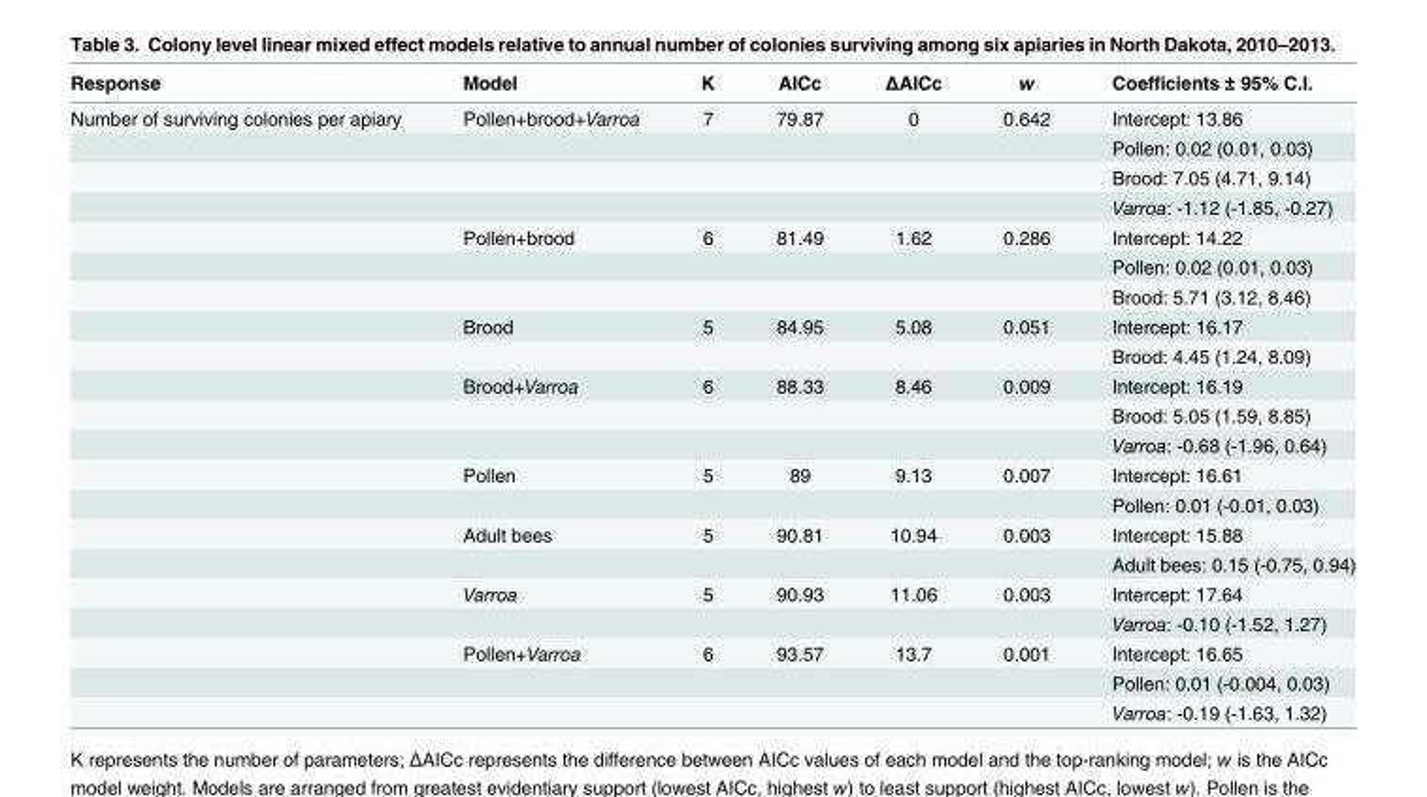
<table><thead><tr><td>Response</td><td>Model</td><td>K</td><td>AICc</td><td>ΔAICc</td><td>w</td><td>Coefficients ± 95% C.I.</td></tr></thead><tbody><tr><td rowspan="21">Number of surviving colonies per apiary</td><td>Pollen+brood+Varroa</td><td>7</td><td>79.87</td><td>0</td><td>0.642</td><td>Intercept: 13.86</td></tr><tr><td></td><td></td><td></td><td></td><td></td><td>Pollen: 0.02 (0.01, 0.03)</td></tr><tr><td></td><td></td><td></td><td></td><td></td><td>Brood: 7.05 (4.71, 9.14)</td></tr><tr><td></td><td></td><td></td><td></td><td></td><td>Varroa: -1.12 (-1.85, -0.27)</td></tr><tr><td>Pollen+brood</td><td>6</td><td>81.49</td><td>1.62</td><td>0.286</td><td>Intercept: 14.22</td></tr><tr><td></td><td></td><td></td><td></td><td></td><td>Pollen: 0.02 (0.01, 0.03)</td></tr><tr><td></td><td></td><td></td><td></td><td></td><td>Brood: 5.71 (3.12, 8.46)</td></tr><tr><td>Brood</td><td>5</td><td>84.95</td><td>5.08</td><td>0.051</td><td>Intercept: 16.17</td></tr><tr><td></td><td></td><td></td><td></td><td></td><td>Brood: 4.45 (1.24, 8.09)</td></tr><tr><td>Brood+Varroa</td><td>6</td><td>88.33</td><td>8.46</td><td>0.009</td><td>Intercept: 16.19</td></tr><tr><td></td><td></td><td></td><td></td><td></td><td>Brood: 5.05 (1.59, 8.85)</td></tr><tr><td></td><td></td><td></td><td></td><td></td><td>Varroa: -0.68 (-1.96, 0.64)</td></tr><tr><td>Pollen</td><td>5</td><td>89</td><td>9.13</td><td>0.007</td><td>Intercept: 16.61</td></tr><tr><td></td><td></td><td></td><td></td><td></td><td>Pollen: 0.01 (-0.01, 0.03)</td></tr><tr><td>Adult bees</td><td>5</td><td>90.81</td><td>10.94</td><td>0.003</td><td>Intercept: 15.88</td></tr><tr><td></td><td></td><td></td><td></td><td></td><td>Adult bees: 0.15 (-0.75, 0.94)</td></tr><tr><td>Varroa</td><td>5</td><td>90.93</td><td>11.06</td><td>0.003</td><td>Intercept: 17.64</td></tr><tr><td></td><td></td><td></td><td></td><td></td><td>Varroa: -0.10 (-1.52, 1.27)</td></tr><tr><td>Pollen+Varroa</td><td>6</td><td>93.57</td><td>13.7</td><td>0.001</td><td>Intercept: 16.65</td></tr><tr><td></td><td></td><td></td><td></td><td></td><td>Pollen: 0.01 (-0.004, 0.03)</td></tr><tr><td></td><td></td><td></td><td></td><td></td><td>Varroa: -0.19 (-1.63, 1.32)</td></tr></tbody></table>